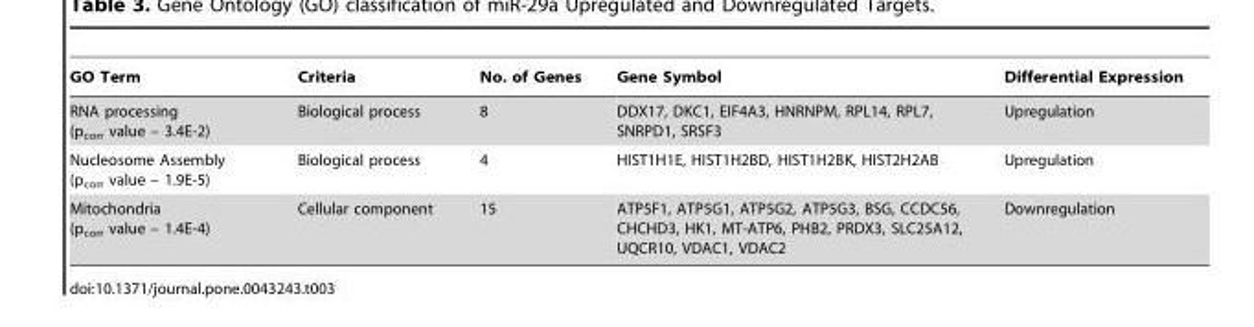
<table><thead><tr><td>GO Term</td><td>Criteria</td><td>No. of Genes</td><td>Gene Symbol</td><td>Differential Expression</td></tr></thead><tbody><tr><td>RNA processing (p<sub>corr</sub> value – 3.4E-2)</td><td>Biological process</td><td>8</td><td>DDX17, DKC1, EIF4A3, HNRNPM, RPL14, RPL7, SNRPD1, SRSF3</td><td>Upregulation</td></tr><tr><td>Nucleosome Assembly (p<sub>corr</sub> value – 1.9E-5)</td><td>Biological process</td><td>4</td><td>HIST1H1E, HIST1H2BD, HIST1H2BK, HIST2H2AB</td><td>Upregulation</td></tr><tr><td>Mitochondria (p<sub>corr</sub> value – 1.4E-4)</td><td>Cellular component</td><td>15</td><td>ATP5F1, ATP5G1, ATP5G2, ATP5G3, BSG, CCDC56, CHCHD3, HK1, MT-ATP6, PHB2, PRDX3, SLC25A12, UQCR10, VDAC1, VDAC2</td><td>Downregulation</td></tr></tbody></table>